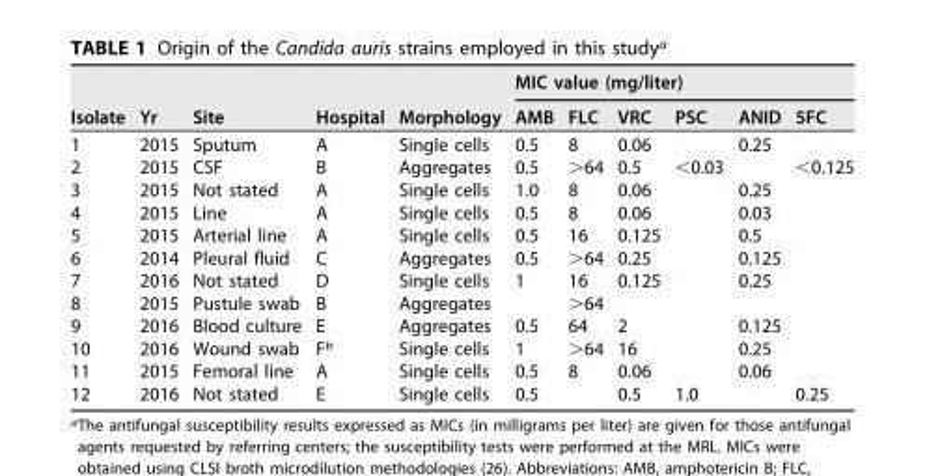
<table><thead><tr><td rowspan="2">Isolate</td><td rowspan="2">Yr</td><td rowspan="2">Site</td><td rowspan="2">Hospital</td><td rowspan="2">Morphology</td><td colspan="6">MIC value (mg/liter)</td></tr><tr><td>AMB</td><td>FLC</td><td>VRC</td><td>PSC</td><td>ANID</td><td>5FC</td></tr></thead><tbody><tr><td>1</td><td>2015</td><td>Sputum</td><td>A</td><td>Single cells</td><td>0.5</td><td>8</td><td>0.06</td><td></td><td>0.25</td><td></td></tr><tr><td>2</td><td>2015</td><td>CSF</td><td>B</td><td>Aggregates</td><td>0.5</td><td>&gt;64</td><td>0.5</td><td>&lt;0.03</td><td></td><td>&lt;0.125</td></tr><tr><td>3</td><td>2015</td><td>Not stated</td><td>A</td><td>Single cells</td><td>1.0</td><td>8</td><td>0.06</td><td></td><td>0.25</td><td></td></tr><tr><td>4</td><td>2015</td><td>Line</td><td>A</td><td>Single cells</td><td>0.5</td><td>8</td><td>0.06</td><td></td><td>0.03</td><td></td></tr><tr><td>5</td><td>2015</td><td>Arterial line</td><td>A</td><td>Single cells</td><td>0.5</td><td>16</td><td>0.125</td><td></td><td>0.5</td><td></td></tr><tr><td>6</td><td>2014</td><td>Pleural fluid</td><td>C</td><td>Aggregates</td><td>0.5</td><td>&gt;64</td><td>0.25</td><td></td><td>0.125</td><td></td></tr><tr><td>7</td><td>2016</td><td>Not stated</td><td>D</td><td>Single cells</td><td>1</td><td>16</td><td>0.125</td><td></td><td>0.25</td><td></td></tr><tr><td>8</td><td>2015</td><td>Pustule swab</td><td>B</td><td>Aggregates</td><td></td><td>&gt;64</td><td></td><td></td><td></td><td></td></tr><tr><td>9</td><td>2016</td><td>Blood culture</td><td>E</td><td>Aggregates</td><td>0.5</td><td>64</td><td>2</td><td></td><td>0.125</td><td></td></tr><tr><td>10</td><td>2016</td><td>Wound swab</td><td>F<sup>b</sup></td><td>Single cells</td><td>1</td><td>&gt;64</td><td>16</td><td></td><td>0.25</td><td></td></tr><tr><td>11</td><td>2015</td><td>Femoral line</td><td>A</td><td>Single cells</td><td>0.5</td><td>8</td><td>0.06</td><td></td><td>0.06</td><td></td></tr><tr><td>12</td><td>2016</td><td>Not stated</td><td>E</td><td>Single cells</td><td>0.5</td><td></td><td>0.5</td><td>1.0</td><td></td><td>0.25</td></tr></tbody></table>